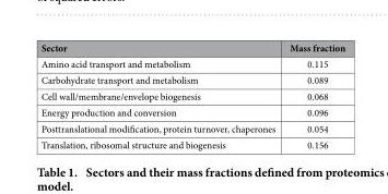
<table><thead><tr><td>Sector</td><td>Mass fraction</td></tr></thead><tbody><tr><td>Amino acid transport and metabolism</td><td>0.115</td></tr><tr><td>Carbohydrate transport and metabolism</td><td>0.089</td></tr><tr><td>Cell wall/membrane/envelope biogenesis</td><td>0.068</td></tr><tr><td>Energy production and conversion</td><td>0.096</td></tr><tr><td>Posttranslational modification, protein turnover, chaperones</td><td>0.054</td></tr><tr><td>Translation, ribosomal structure and biogenesis</td><td>0.156</td></tr></tbody></table>